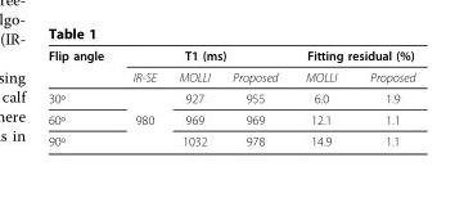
<table><thead><tr><td rowspan="2">Flip angle</td><td colspan="3">T1 (ms)</td><td colspan="2">Fitting residual (%)</td></tr><tr><td>IR-SE</td><td>MOLLI</td><td>Proposed</td><td>MOLLI</td><td>Proposed</td></tr></thead><tbody><tr><td>30º</td><td></td><td>927</td><td>955</td><td>6.0</td><td>1.9</td></tr><tr><td>60º</td><td>980</td><td>969</td><td>969</td><td>12.1</td><td>1.1</td></tr><tr><td>90º</td><td></td><td>1032</td><td>978</td><td>14.9</td><td>1.1</td></tr></tbody></table>